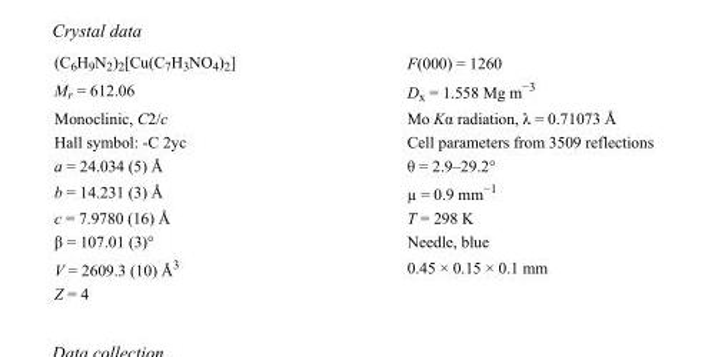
<table><tbody><tr><td>(C<sub>6</sub>H<sub>9</sub>N<sub>2</sub>)<sub>2</sub>[Cu(C<sub>7</sub>H<sub>3</sub>NO<sub>4</sub>)<sub>2</sub>]</td><td>F(000) = 1260</td></tr><tr><td>M<sub>r</sub> = 612.06</td><td>D<sub>x</sub> = 1.558 Mg m<sup>−3</sup></td></tr><tr><td>Monoclinic, C2/c</td><td>Mo Kα radiation, λ = 0.71073 Å</td></tr><tr><td>Hall symbol: -C 2yc</td><td>Cell parameters from 3509 reflections</td></tr><tr><td>a = 24.034 (5) Å</td><td>θ = 2.9–29.2°</td></tr><tr><td>b = 14.231 (3) Å</td><td>µ = 0.9 mm<sup>−1</sup></td></tr><tr><td>c = 7.9780 (16) Å</td><td>T = 298 K</td></tr><tr><td>β = 107.01 (3)°</td><td>Needle, blue</td></tr><tr><td>V = 2609.3 (10) Å<sup>3</sup></td><td>0.45 × 0.15 × 0.1 mm</td></tr><tr><td>Z = 4</td><td></td></tr></tbody></table>